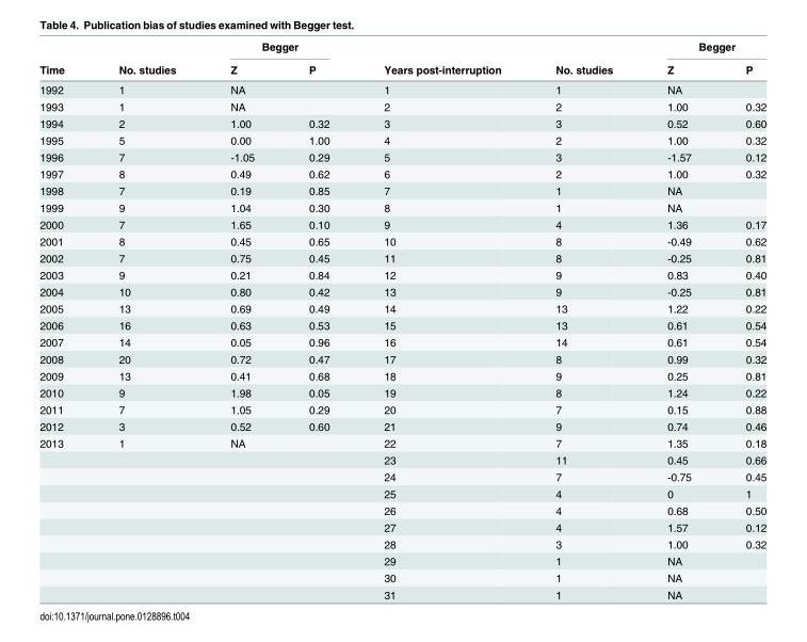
<table><thead><tr><td rowspan="2">Time</td><td rowspan="2">No. studies</td><td colspan="2">Begger</td><td rowspan="2">Years post-interruption</td><td rowspan="2">No. studies</td><td colspan="2">Begger</td></tr><tr><td>Z</td><td>P</td><td>Z</td><td>P</td></tr></thead><tbody><tr><td>1992</td><td>1</td><td>NA</td><td></td><td>1</td><td>1</td><td>NA</td><td></td></tr><tr><td>1993</td><td>1</td><td>NA</td><td></td><td>2</td><td>2</td><td>1.00</td><td>0.32</td></tr><tr><td>1994</td><td>2</td><td>1.00</td><td>0.32</td><td>3</td><td>3</td><td>0.52</td><td>0.60</td></tr><tr><td>1995</td><td>5</td><td>0.00</td><td>1.00</td><td>4</td><td>2</td><td>1.00</td><td>0.32</td></tr><tr><td>1996</td><td>7</td><td>-1.05</td><td>0.29</td><td>5</td><td>3</td><td>-1.57</td><td>0.12</td></tr><tr><td>1997</td><td>8</td><td>0.49</td><td>0.62</td><td>6</td><td>2</td><td>1.00</td><td>0.32</td></tr><tr><td>1998</td><td>7</td><td>0.19</td><td>0.85</td><td>7</td><td>1</td><td>NA</td><td></td></tr><tr><td>1999</td><td>9</td><td>1.04</td><td>0.30</td><td>8</td><td>1</td><td>NA</td><td></td></tr><tr><td>2000</td><td>7</td><td>1.65</td><td>0.10</td><td>9</td><td>4</td><td>1.36</td><td>0.17</td></tr><tr><td>2001</td><td>8</td><td>0.45</td><td>0.65</td><td>10</td><td>8</td><td>-0.49</td><td>0.62</td></tr><tr><td>2002</td><td>7</td><td>0.75</td><td>0.45</td><td>11</td><td>8</td><td>-0.25</td><td>0.81</td></tr><tr><td>2003</td><td>9</td><td>0.21</td><td>0.84</td><td>12</td><td>9</td><td>0.83</td><td>0.40</td></tr><tr><td>2004</td><td>10</td><td>0.80</td><td>0.42</td><td>13</td><td>9</td><td>-0.25</td><td>0.81</td></tr><tr><td>2005</td><td>13</td><td>0.69</td><td>0.49</td><td>14</td><td>13</td><td>1.22</td><td>0.22</td></tr><tr><td>2006</td><td>16</td><td>0.63</td><td>0.53</td><td>15</td><td>13</td><td>0.61</td><td>0.54</td></tr><tr><td>2007</td><td>14</td><td>0.05</td><td>0.96</td><td>16</td><td>14</td><td>0.61</td><td>0.54</td></tr><tr><td>2008</td><td>20</td><td>0.72</td><td>0.47</td><td>17</td><td>8</td><td>0.99</td><td>0.32</td></tr><tr><td>2009</td><td>13</td><td>0.41</td><td>0.68</td><td>18</td><td>9</td><td>0.25</td><td>0.81</td></tr><tr><td>2010</td><td>9</td><td>1.98</td><td>0.05</td><td>19</td><td>8</td><td>1.24</td><td>0.22</td></tr><tr><td>2011</td><td>7</td><td>1.05</td><td>0.29</td><td>20</td><td>7</td><td>0.15</td><td>0.88</td></tr><tr><td>2012</td><td>3</td><td>0.52</td><td>0.60</td><td>21</td><td>9</td><td>0.74</td><td>0.46</td></tr><tr><td rowspan="10">2013</td><td>1</td><td>NA</td><td></td><td>22</td><td>7</td><td>1.35</td><td>0.18</td></tr><tr><td></td><td></td><td></td><td>23</td><td>11</td><td>0.45</td><td>0.66</td></tr><tr><td></td><td></td><td></td><td>24</td><td>7</td><td>-0.75</td><td>0.45</td></tr><tr><td></td><td></td><td></td><td>25</td><td>4</td><td>0</td><td>1</td></tr><tr><td></td><td></td><td></td><td>26</td><td>4</td><td>0.68</td><td>0.50</td></tr><tr><td></td><td></td><td></td><td>27</td><td>4</td><td>1.57</td><td>0.12</td></tr><tr><td></td><td></td><td></td><td>28</td><td>3</td><td>1.00</td><td>0.32</td></tr><tr><td></td><td></td><td></td><td>29</td><td>1</td><td>NA</td><td></td></tr><tr><td></td><td></td><td></td><td>30</td><td>1</td><td>NA</td><td></td></tr><tr><td></td><td></td><td></td><td>31</td><td>1</td><td>NA</td><td></td></tr></tbody></table>